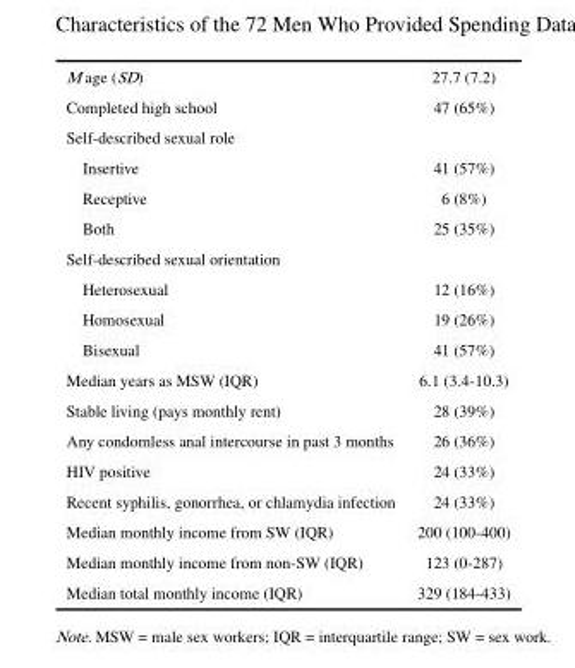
<table><tbody><tr><td>M age (SD)</td><td>27.7 (7.2)</td></tr><tr><td>Completed high school</td><td>47 (65%)</td></tr><tr><td colspan="2">Self-described sexual role</td></tr><tr><td>Insertive</td><td>41 (57%)</td></tr><tr><td>Receptive</td><td>6 (8%)</td></tr><tr><td>Both</td><td>25 (35%)</td></tr><tr><td colspan="2">Self-described sexual orientation</td></tr><tr><td>Heterosexual</td><td>12 (16%)</td></tr><tr><td>Homosexual</td><td>19 (26%)</td></tr><tr><td>Bisexual</td><td>41 (57%)</td></tr><tr><td>Median years as MSW (IQR)</td><td>6.1 (3.4-10.3)</td></tr><tr><td>Stable living (pays monthly rent)</td><td>28 (39%)</td></tr><tr><td>Any condomless anal intercourse in past 3 months</td><td>26 (36%)</td></tr><tr><td>HIV positive</td><td>24 (33%)</td></tr><tr><td>Recent syphilis, gonorrhea, or chlamydia infection</td><td>24 (33%)</td></tr><tr><td>Median monthly income from SW (IQR)</td><td>200 (100-400)</td></tr><tr><td>Median monthly income from non-SW (IQR)</td><td>123 (0-287)</td></tr><tr><td>Median total monthly income (IQR)</td><td>329 (184-433)</td></tr></tbody></table>